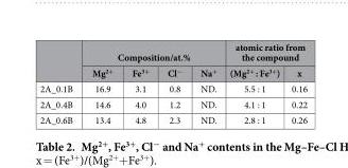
<table><thead><tr><td rowspan="2"></td><td colspan="4">Composition/at.%</td><td colspan="2">atomic ratio from the compound</td></tr><tr><td>Mg<sup>2+</sup></td><td>Fe<sup>3+</sup></td><td>Cl<sup>−</sup></td><td>Na<sup>+</sup></td><td>(Mg<sup>2+</sup> : Fe<sup>3+</sup>)</td><td>x</td></tr></thead><tbody><tr><td>2A_0.1B</td><td>16.9</td><td>3.1</td><td>0.8</td><td>ND.</td><td>5.5 : 1</td><td>0.16</td></tr><tr><td>2A_0.4B</td><td>14.6</td><td>4.0</td><td>1.2</td><td>ND.</td><td>4.1 : 1</td><td>0.22</td></tr><tr><td>2A_0.6B</td><td>13.4</td><td>4.8</td><td>2.3</td><td>ND.</td><td>2.8 : 1</td><td>0.26</td></tr></tbody></table>